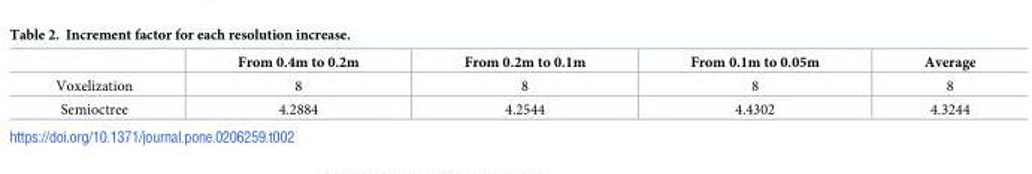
<table><thead><tr><td></td><td>From 0.4m to 0.2m</td><td>From 0.2m to 0.1m</td><td>From 0.1m to 0.05m</td><td>Average</td></tr></thead><tbody><tr><td>Voxelization</td><td>8</td><td>8</td><td>8</td><td>8</td></tr><tr><td>Semioctree</td><td>4.2884</td><td>4.2544</td><td>4.4302</td><td>4.3244</td></tr></tbody></table>